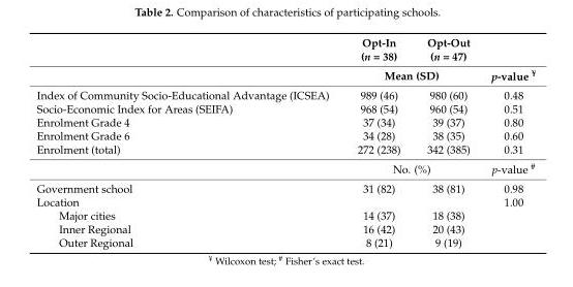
<table><thead><tr><td rowspan="2"></td><td>Opt-In (n = 38)</td><td>Opt-Out (n = 47)</td><td rowspan="2">p-value <sup>¥</sup></td></tr><tr><td colspan="2">Mean (SD)</td></tr></thead><tbody><tr><td>Index of Community Socio-Educational Advantage (ICSEA)</td><td>989 (46)</td><td>980 (60)</td><td>0.48</td></tr><tr><td>Socio-Economic Index for Areas (SEIFA)</td><td>968 (54)</td><td>960 (54)</td><td>0.51</td></tr><tr><td>Enrolment Grade 4</td><td>37 (34)</td><td>39 (37)</td><td>0.80</td></tr><tr><td>Enrolment Grade 6</td><td>34 (28)</td><td>38 (35)</td><td>0.60</td></tr><tr><td rowspan="2">Enrolment (total)</td><td>272 (238)</td><td>342 (385)</td><td>0.31</td></tr><tr><td colspan="2">No. (%)</td><td>p-value <sup>#</sup></td></tr><tr><td>Government school</td><td>31 (82)</td><td>38 (81)</td><td>0.98</td></tr><tr><td>Location</td><td></td><td></td><td>1.00</td></tr><tr><td>Major cities</td><td>14 (37)</td><td>18 (38)</td><td rowspan="3"></td></tr><tr><td>Inner Regional</td><td>16 (42)</td><td>20 (43)</td></tr><tr><td>Outer Regional</td><td>8 (21)</td><td>9 (19)</td></tr></tbody></table>